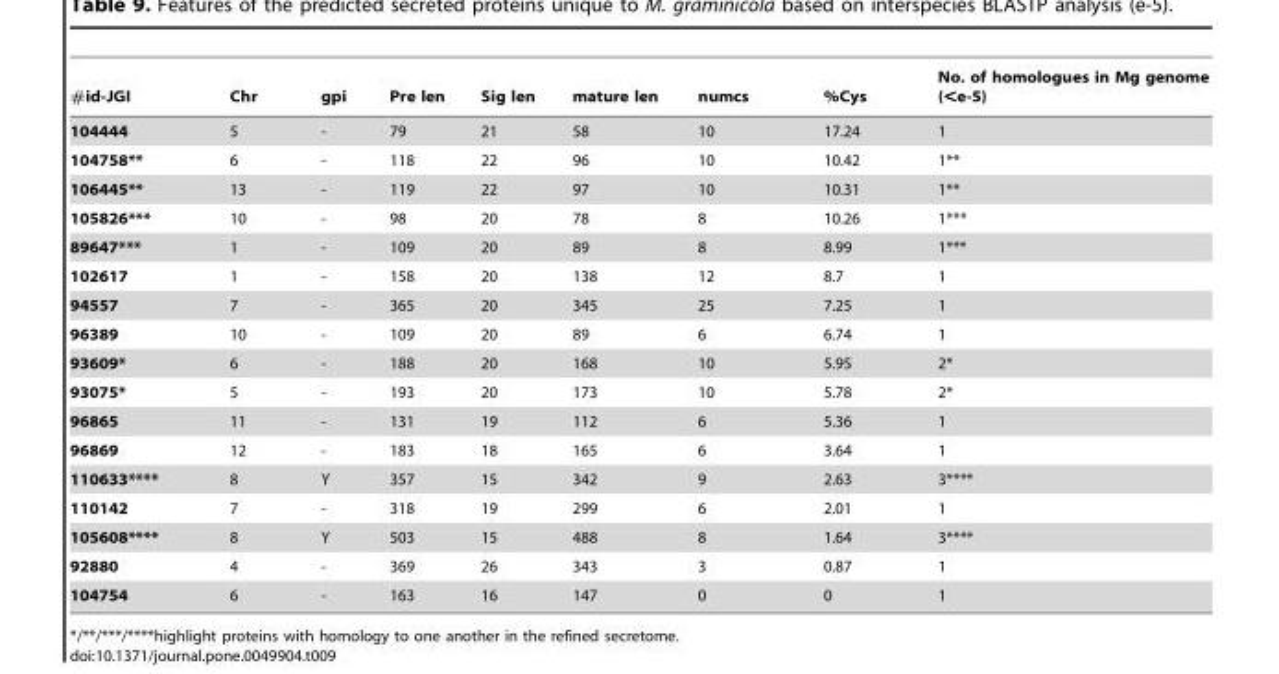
<table><thead><tr><td>#id-JGI</td><td>Chr</td><td>gpi</td><td>Pre len</td><td>Sig len</td><td>mature len</td><td>numcs</td><td>%Cys</td><td>No. of homologues in Mg genome (&lt;e-5)</td></tr></thead><tbody><tr><td>104444</td><td>5</td><td>-</td><td>79</td><td>21</td><td>58</td><td>10</td><td>17.24</td><td>1</td></tr><tr><td>104758**</td><td>6</td><td>-</td><td>118</td><td>22</td><td>96</td><td>10</td><td>10.42</td><td>1**</td></tr><tr><td>106445**</td><td>13</td><td>-</td><td>119</td><td>22</td><td>97</td><td>10</td><td>10.31</td><td>1**</td></tr><tr><td>105826***</td><td>10</td><td>-</td><td>98</td><td>20</td><td>78</td><td>8</td><td>10.26</td><td>1***</td></tr><tr><td>89647***</td><td>1</td><td>-</td><td>109</td><td>20</td><td>89</td><td>8</td><td>8.99</td><td>1***</td></tr><tr><td>102617</td><td>1</td><td>-</td><td>158</td><td>20</td><td>138</td><td>12</td><td>8.7</td><td>1</td></tr><tr><td>94557</td><td>7</td><td>-</td><td>365</td><td>20</td><td>345</td><td>25</td><td>7.25</td><td>1</td></tr><tr><td>96389</td><td>10</td><td>-</td><td>109</td><td>20</td><td>89</td><td>6</td><td>6.74</td><td>1</td></tr><tr><td>93609*</td><td>6</td><td>-</td><td>188</td><td>20</td><td>168</td><td>10</td><td>5.95</td><td>2*</td></tr><tr><td>93075*</td><td>5</td><td>-</td><td>193</td><td>20</td><td>173</td><td>10</td><td>5.78</td><td>2*</td></tr><tr><td>96865</td><td>11</td><td>-</td><td>131</td><td>19</td><td>112</td><td>6</td><td>5.36</td><td>1</td></tr><tr><td>96869</td><td>12</td><td>-</td><td>183</td><td>18</td><td>165</td><td>6</td><td>3.64</td><td>1</td></tr><tr><td>110633****</td><td>8</td><td>Y</td><td>357</td><td>15</td><td>342</td><td>9</td><td>2.63</td><td>3****</td></tr><tr><td>110142</td><td>7</td><td>-</td><td>318</td><td>19</td><td>299</td><td>6</td><td>2.01</td><td>1</td></tr><tr><td>105608****</td><td>8</td><td>Y</td><td>503</td><td>15</td><td>488</td><td>8</td><td>1.64</td><td>3****</td></tr><tr><td>92880</td><td>4</td><td>-</td><td>369</td><td>26</td><td>343</td><td>3</td><td>0.87</td><td>1</td></tr><tr><td>104754</td><td>6</td><td>-</td><td>163</td><td>16</td><td>147</td><td>0</td><td>0</td><td>1</td></tr></tbody></table>